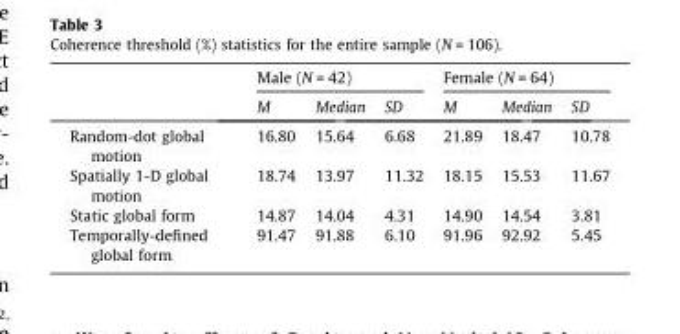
<table><thead><tr><td rowspan="2"></td><td colspan="3">Male (N = 42)</td><td colspan="3">Female (N = 64)</td></tr><tr><td>M</td><td>Median</td><td>SD</td><td>M</td><td>Median</td><td>SD</td></tr></thead><tbody><tr><td>Random-dot global motion</td><td>16.80</td><td>15.64</td><td>6.68</td><td>21.89</td><td>18.47</td><td>10.78</td></tr><tr><td>Spatially 1-D global motion</td><td>18.74</td><td>13.97</td><td>11.32</td><td>18.15</td><td>15.53</td><td>11.67</td></tr><tr><td>Static global form</td><td>14.87</td><td>14.04</td><td>4.31</td><td>14.90</td><td>14.54</td><td>3.81</td></tr><tr><td>Temporally-defined global form</td><td>91.47</td><td>91.88</td><td>6.10</td><td>91.96</td><td>92.92</td><td>5.45</td></tr></tbody></table>